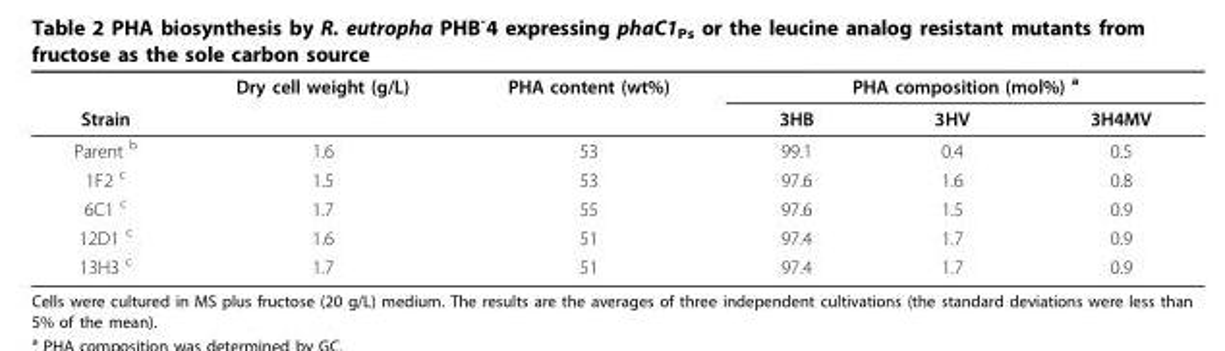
<table><thead><tr><td rowspan="2">Strain</td><td rowspan="2">Dry cell weight (g/L)</td><td rowspan="2">PHA content (wt%)</td><td colspan="3">PHA composition (mol%) <sup>a</sup></td></tr><tr><td>3HB</td><td>3HV</td><td>3H4MV</td></tr></thead><tbody><tr><td>Parent <sup>b</sup></td><td>1.6</td><td>53</td><td>99.1</td><td>0.4</td><td>0.5</td></tr><tr><td>1F2 <sup>c</sup></td><td>1.5</td><td>53</td><td>97.6</td><td>1.6</td><td>0.8</td></tr><tr><td>6C1 <sup>c</sup></td><td>1.7</td><td>55</td><td>97.6</td><td>1.5</td><td>0.9</td></tr><tr><td>12D1 <sup>c</sup></td><td>1.6</td><td>51</td><td>97.4</td><td>1.7</td><td>0.9</td></tr><tr><td>13H3 <sup>c</sup></td><td>1.7</td><td>51</td><td>97.4</td><td>1.7</td><td>0.9</td></tr></tbody></table>